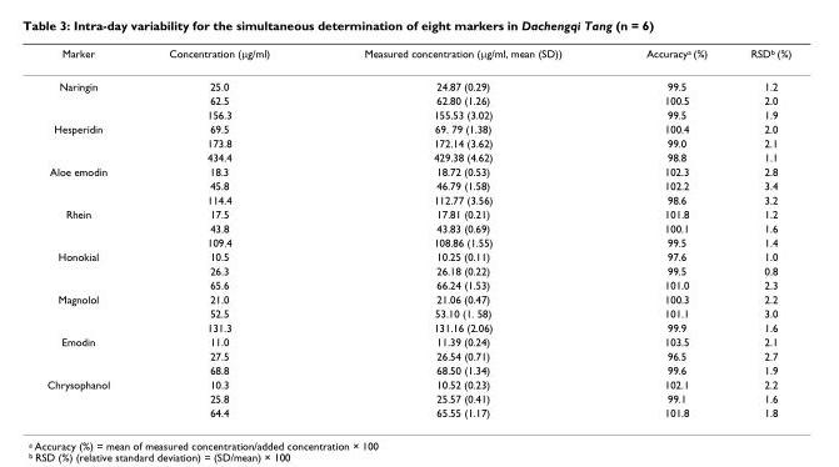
<table><thead><tr><td>Marker</td><td>Concentration (µg/ml)</td><td>Measured concentration (µg/ml, mean (SD))</td><td>Accuracy<sup>a</sup> (%)</td><td>RSD<sup>b</sup> (%)</td></tr></thead><tbody><tr><td rowspan="3">Naringin</td><td>25.0</td><td>24.87 (0.29)</td><td>99.5</td><td>1.2</td></tr><tr><td>62.5</td><td>62.80 (1.26)</td><td>100.5</td><td>2.0</td></tr><tr><td>156.3</td><td>155.53 (3.02)</td><td>99.5</td><td>1.9</td></tr><tr><td rowspan="3">Hesperidin</td><td>69.5</td><td>69. 79 (1.38)</td><td>100.4</td><td>2.0</td></tr><tr><td>173.8</td><td>172.14 (3.62)</td><td>99.0</td><td>2.1</td></tr><tr><td>434.4</td><td>429.38 (4.62)</td><td>98.8</td><td>1.1</td></tr><tr><td rowspan="3">Aloe emodin</td><td>18.3</td><td>18.72 (0.53)</td><td>102.3</td><td>2.8</td></tr><tr><td>45.8</td><td>46.79 (1.58)</td><td>102.2</td><td>3.4</td></tr><tr><td>114.4</td><td>112.77 (3.56)</td><td>98.6</td><td>3.2</td></tr><tr><td rowspan="3">Rhein</td><td>17.5</td><td>17.81 (0.21)</td><td>101.8</td><td>1.2</td></tr><tr><td>43.8</td><td>43.83 (0.69)</td><td>100.1</td><td>1.6</td></tr><tr><td>109.4</td><td>108.86 (1.55)</td><td>99.5</td><td>1.4</td></tr><tr><td rowspan="3">Honokial</td><td>10.5</td><td>10.25 (0.11)</td><td>97.6</td><td>1.0</td></tr><tr><td>26.3</td><td>26.18 (0.22)</td><td>99.5</td><td>0.8</td></tr><tr><td>65.6</td><td>66.24 (1.53)</td><td>101.0</td><td>2.3</td></tr><tr><td rowspan="3">Magnolol</td><td>21.0</td><td>21.06 (0.47)</td><td>100.3</td><td>2.2</td></tr><tr><td>52.5</td><td>53.10 (1. 58)</td><td>101.1</td><td>3.0</td></tr><tr><td>131.3</td><td>131.16 (2.06)</td><td>99.9</td><td>1.6</td></tr><tr><td rowspan="3">Emodin</td><td>11.0</td><td>11.39 (0.24)</td><td>103.5</td><td>2.1</td></tr><tr><td>27.5</td><td>26.54 (0.71)</td><td>96.5</td><td>2.7</td></tr><tr><td>68.8</td><td>68.50 (1.34)</td><td>99.6</td><td>1.9</td></tr><tr><td rowspan="3">Chrysophanol</td><td>10.3</td><td>10.52 (0.23)</td><td>102.1</td><td>2.2</td></tr><tr><td>25.8</td><td>25.57 (0.41)</td><td>99.1</td><td>1.6</td></tr><tr><td>64.4</td><td>65.55 (1.17)</td><td>101.8</td><td>1.8</td></tr></tbody></table>